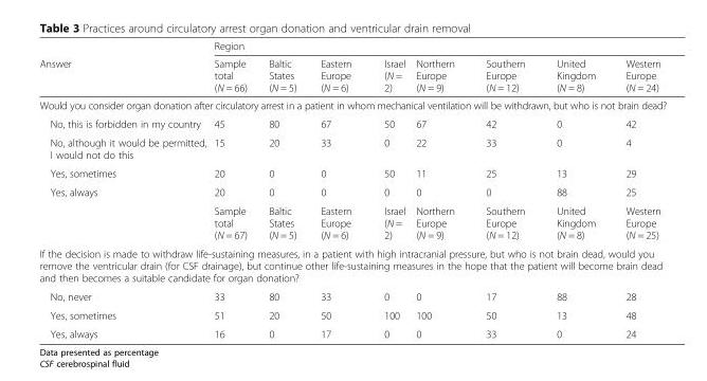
<table><thead><tr><td rowspan="2">Answer</td><td colspan="8">Region</td></tr><tr><td>Sample total (N = 66)</td><td>Baltic States (N = 5)</td><td>Eastern Europe (N = 6)</td><td>Israel (N = 2)</td><td>Northern Europe (N = 9)</td><td>Southern Europe (N = 12)</td><td>United Kingdom (N = 8)</td><td>Western Europe (N = 24)</td></tr></thead><tbody><tr><td colspan="9">Would you consider organ donation after circulatory arrest in a patient in whom mechanical ventilation will be withdrawn, but who is not brain dead?</td></tr><tr><td>No, this is forbidden in my country</td><td>45</td><td>80</td><td>67</td><td>50</td><td>67</td><td>42</td><td>0</td><td>42</td></tr><tr><td>No, although it would be permitted, I would not do this</td><td>15</td><td>20</td><td>33</td><td>0</td><td>22</td><td>33</td><td>0</td><td>4</td></tr><tr><td>Yes, sometimes</td><td>20</td><td>0</td><td>0</td><td>50</td><td>11</td><td>25</td><td>13</td><td>29</td></tr><tr><td rowspan="2">Yes, always</td><td>20</td><td>0</td><td>0</td><td>0</td><td>0</td><td>0</td><td>88</td><td>25</td></tr><tr><td>Sample total (N = 67)</td><td>Baltic States (N = 5)</td><td>Eastern Europe (N = 6)</td><td>Israel (N = 2)</td><td>Northern Europe (N = 9)</td><td>Southern Europe (N = 12)</td><td>United Kingdom (N = 8)</td><td>Western Europe (N = 25)</td></tr><tr><td colspan="9">If the decision is made to withdraw life-sustaining measures, in a patient with high intracranial pressure, but who is not brain dead, would you remove the ventricular drain (for CSF drainage), but continue other life-sustaining measures in the hope that the patient will become brain dead and then becomes a suitable candidate for organ donation?</td></tr><tr><td>No, never</td><td>33</td><td>80</td><td>33</td><td>0</td><td>0</td><td>17</td><td>88</td><td>28</td></tr><tr><td>Yes, sometimes</td><td>51</td><td>20</td><td>50</td><td>100</td><td>100</td><td>50</td><td>13</td><td>48</td></tr><tr><td>Yes, always</td><td>16</td><td>0</td><td>17</td><td>0</td><td>0</td><td>33</td><td>0</td><td>24</td></tr></tbody></table>